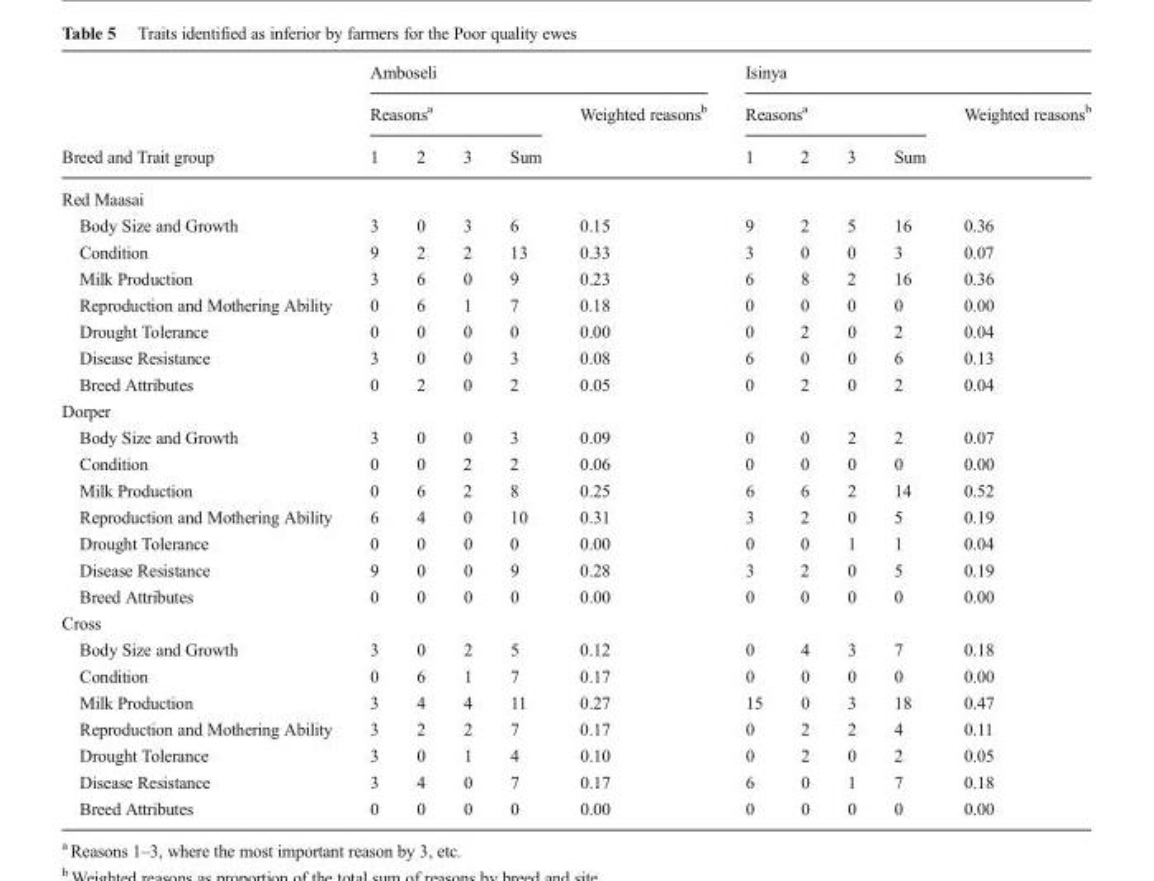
<table><thead><tr><td rowspan="3">Breed and Trait group</td><td colspan="5">Amboseli</td><td colspan="5">Isinya</td></tr><tr><td colspan="4">Reasons<sup>a</sup></td><td rowspan="2">Weighted reasons<sup>b</sup></td><td colspan="4">Reasons<sup>a</sup></td><td rowspan="2">Weighted reasons<sup>b</sup></td></tr><tr><td>1</td><td>2</td><td>3</td><td>Sum</td><td>1</td><td>2</td><td>3</td><td>Sum</td></tr></thead><tbody><tr><td colspan="11">Red Maasai</td></tr><tr><td>Body Size and Growth</td><td>3</td><td>0</td><td>3</td><td>6</td><td>0.15</td><td>9</td><td>2</td><td>5</td><td>16</td><td>0.36</td></tr><tr><td>Condition</td><td>9</td><td>2</td><td>2</td><td>13</td><td>0.33</td><td>3</td><td>0</td><td>0</td><td>3</td><td>0.07</td></tr><tr><td>Milk Production</td><td>3</td><td>6</td><td>0</td><td>9</td><td>0.23</td><td>6</td><td>8</td><td>2</td><td>16</td><td>0.36</td></tr><tr><td>Reproduction and Mothering Ability</td><td>0</td><td>6</td><td>1</td><td>7</td><td>0.18</td><td>0</td><td>0</td><td>0</td><td>0</td><td>0.00</td></tr><tr><td>Drought Tolerance</td><td>0</td><td>0</td><td>0</td><td>0</td><td>0.00</td><td>0</td><td>2</td><td>0</td><td>2</td><td>0.04</td></tr><tr><td>Disease Resistance</td><td>3</td><td>0</td><td>0</td><td>3</td><td>0.08</td><td>6</td><td>0</td><td>0</td><td>6</td><td>0.13</td></tr><tr><td>Breed Attributes</td><td>0</td><td>2</td><td>0</td><td>2</td><td>0.05</td><td>0</td><td>2</td><td>0</td><td>2</td><td>0.04</td></tr><tr><td colspan="11">Dorper</td></tr><tr><td>Body Size and Growth</td><td>3</td><td>0</td><td>0</td><td>3</td><td>0.09</td><td>0</td><td>0</td><td>2</td><td>2</td><td>0.07</td></tr><tr><td>Condition</td><td>0</td><td>0</td><td>2</td><td>2</td><td>0.06</td><td>0</td><td>0</td><td>0</td><td>0</td><td>0.00</td></tr><tr><td>Milk Production</td><td>0</td><td>6</td><td>2</td><td>8</td><td>0.25</td><td>6</td><td>6</td><td>2</td><td>14</td><td>0.52</td></tr><tr><td>Reproduction and Mothering Ability</td><td>6</td><td>4</td><td>0</td><td>10</td><td>0.31</td><td>3</td><td>2</td><td>0</td><td>5</td><td>0.19</td></tr><tr><td>Drought Tolerance</td><td>0</td><td>0</td><td>0</td><td>0</td><td>0.00</td><td>0</td><td>0</td><td>1</td><td>1</td><td>0.04</td></tr><tr><td>Disease Resistance</td><td>9</td><td>0</td><td>0</td><td>9</td><td>0.28</td><td>3</td><td>2</td><td>0</td><td>5</td><td>0.19</td></tr><tr><td>Breed Attributes</td><td>0</td><td>0</td><td>0</td><td>0</td><td>0.00</td><td>0</td><td>0</td><td>0</td><td>0</td><td>0.00</td></tr><tr><td colspan="11">Cross</td></tr><tr><td>Body Size and Growth</td><td>3</td><td>0</td><td>2</td><td>5</td><td>0.12</td><td>0</td><td>4</td><td>3</td><td>7</td><td>0.18</td></tr><tr><td>Condition</td><td>0</td><td>6</td><td>1</td><td>7</td><td>0.17</td><td>0</td><td>0</td><td>0</td><td>0</td><td>0.00</td></tr><tr><td>Milk Production</td><td>3</td><td>4</td><td>4</td><td>11</td><td>0.27</td><td>15</td><td>0</td><td>3</td><td>18</td><td>0.47</td></tr><tr><td>Reproduction and Mothering Ability</td><td>3</td><td>2</td><td>2</td><td>7</td><td>0.17</td><td>0</td><td>2</td><td>2</td><td>4</td><td>0.11</td></tr><tr><td>Drought Tolerance</td><td>3</td><td>0</td><td>1</td><td>4</td><td>0.10</td><td>0</td><td>2</td><td>0</td><td>2</td><td>0.05</td></tr><tr><td>Disease Resistance</td><td>3</td><td>4</td><td>0</td><td>7</td><td>0.17</td><td>6</td><td>0</td><td>1</td><td>7</td><td>0.18</td></tr><tr><td>Breed Attributes</td><td>0</td><td>0</td><td>0</td><td>0</td><td>0.00</td><td>0</td><td>0</td><td>0</td><td>0</td><td>0.00</td></tr></tbody></table>